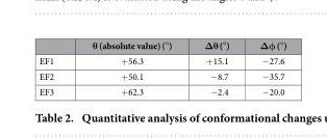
<table><thead><tr><td></td><td>θ (absolute value) (°)</td><td>Δθ (°)</td><td>Δφ (°)</td></tr></thead><tbody><tr><td>EF1</td><td>+ 56.3</td><td>+ 15.1</td><td>− 27.6</td></tr><tr><td>EF2</td><td>+ 50.1</td><td>− 8.7</td><td>− 35.7</td></tr><tr><td>EF3</td><td>+ 62.3</td><td>− 2.4</td><td>− 20.0</td></tr></tbody></table>